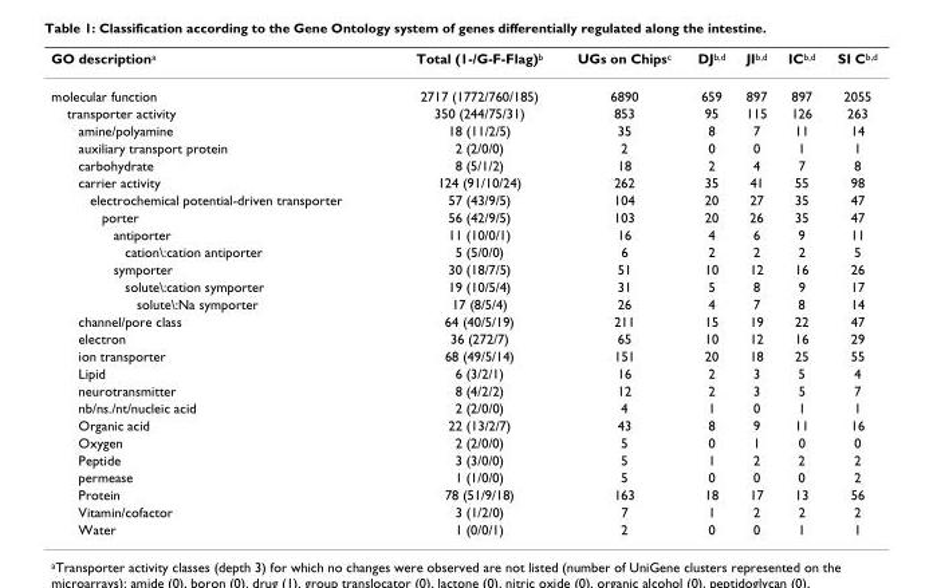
<table><thead><tr><td>GO description<sup>a</sup></td><td>Total (1-/G-F-Flag)<sup>b</sup></td><td>UGs on Chips<sup>c</sup></td><td>DJ<sup>b,d</sup></td><td>JI<sup>b,d</sup></td><td>IC<sup>b,d</sup></td><td>SI C<sup>b,d</sup></td></tr></thead><tbody><tr><td>molecular function</td><td>2717 (1772/760/185)</td><td>6890</td><td>659</td><td>897</td><td>897</td><td>2055</td></tr><tr><td>transporter activity</td><td>350 (244/75/31)</td><td>853</td><td>95</td><td>115</td><td>126</td><td>263</td></tr><tr><td>amine/polyamine</td><td>18 (11/2/5)</td><td>35</td><td>8</td><td>7</td><td>11</td><td>14</td></tr><tr><td>auxiliary transport protein</td><td>2 (2/0/0)</td><td>2</td><td>0</td><td>0</td><td>1</td><td>1</td></tr><tr><td>carbohydrate</td><td>8 (5/1/2)</td><td>18</td><td>2</td><td>4</td><td>7</td><td>8</td></tr><tr><td>carrier activity</td><td>124 (91/10/24)</td><td>262</td><td>35</td><td>41</td><td>55</td><td>98</td></tr><tr><td>electrochemical potential-driven transporter</td><td>57 (43/9/5)</td><td>104</td><td>20</td><td>27</td><td>35</td><td>47</td></tr><tr><td>porter</td><td>56 (42/9/5)</td><td>103</td><td>20</td><td>26</td><td>35</td><td>47</td></tr><tr><td>antiporter</td><td>11 (10/0/1)</td><td>16</td><td>4</td><td>6</td><td>9</td><td>11</td></tr><tr><td>cation\:cation antiporter</td><td>5 (5/0/0)</td><td>6</td><td>2</td><td>2</td><td>2</td><td>5</td></tr><tr><td>symporter</td><td>30 (18/7/5)</td><td>51</td><td>10</td><td>12</td><td>16</td><td>26</td></tr><tr><td>solute\:cation symporter</td><td>19 (10/5/4)</td><td>31</td><td>5</td><td>8</td><td>9</td><td>17</td></tr><tr><td>solute\:Na symporter</td><td>17 (8/5/4)</td><td>26</td><td>4</td><td>7</td><td>8</td><td>14</td></tr><tr><td>channel/pore class</td><td>64 (40/5/19)</td><td>211</td><td>15</td><td>19</td><td>22</td><td>47</td></tr><tr><td>electron</td><td>36 (272/7)</td><td>65</td><td>10</td><td>12</td><td>16</td><td>29</td></tr><tr><td>ion transporter</td><td>68 (49/5/14)</td><td>151</td><td>20</td><td>18</td><td>25</td><td>55</td></tr><tr><td>Lipid</td><td>6 (3/2/1)</td><td>16</td><td>2</td><td>3</td><td>5</td><td>4</td></tr><tr><td>neurotransmitter</td><td>8 (4/2/2)</td><td>12</td><td>2</td><td>3</td><td>5</td><td>7</td></tr><tr><td>nb/ns./nt/nucleic acid</td><td>2 (2/0/0)</td><td>4</td><td>1</td><td>0</td><td>1</td><td>1</td></tr><tr><td>Organic acid</td><td>22 (13/2/7)</td><td>43</td><td>8</td><td>9</td><td>11</td><td>16</td></tr><tr><td>Oxygen</td><td>2 (2/0/0)</td><td>5</td><td>0</td><td>1</td><td>0</td><td>0</td></tr><tr><td>Peptide</td><td>3 (3/0/0)</td><td>5</td><td>1</td><td>2</td><td>2</td><td>2</td></tr><tr><td>permease</td><td>1 (1/0/0)</td><td>5</td><td>0</td><td>0</td><td>0</td><td>2</td></tr><tr><td>Protein</td><td>78 (51/9/18)</td><td>163</td><td>18</td><td>17</td><td>13</td><td>56</td></tr><tr><td>Vitamin/cofactor</td><td>3 (1/2/0)</td><td>7</td><td>1</td><td>2</td><td>2</td><td>2</td></tr><tr><td>Water</td><td>1 (0/0/1)</td><td>2</td><td>0</td><td>0</td><td>1</td><td>1</td></tr></tbody></table>